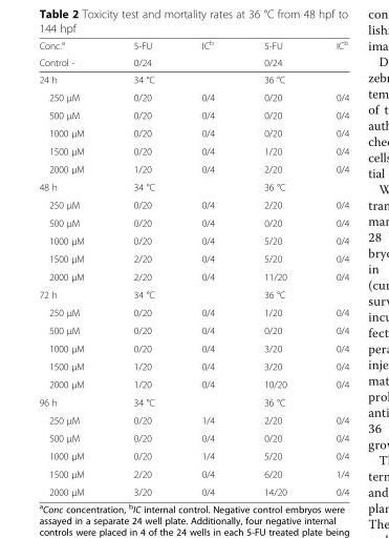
<table><thead><tr><td rowspan="2">Conc.<sup>a</sup> Control -</td><td>5-FU</td><td>IC<sup>b</sup></td><td>5-FU</td><td>IC<sup>b</sup></td></tr><tr><td colspan="2">0/24</td><td colspan="2">0/24</td></tr></thead><tbody><tr><td>24 h</td><td colspan="2">34 °C</td><td colspan="2">36 °C</td></tr><tr><td>250 μM</td><td>0/20</td><td>0/4</td><td>0/20</td><td>0/4</td></tr><tr><td>500 μM</td><td>0/20</td><td>0/4</td><td>0/20</td><td>0/4</td></tr><tr><td>1000 μM</td><td>0/20</td><td>0/4</td><td>0/20</td><td>0/4</td></tr><tr><td>1500 μM</td><td>0/20</td><td>0/4</td><td>1/20</td><td>0/4</td></tr><tr><td>2000 μM</td><td>1/20</td><td>0/4</td><td>2/20</td><td>0/4</td></tr><tr><td>48 h</td><td colspan="2">34 °C</td><td colspan="2">36 °C</td></tr><tr><td>250 μM</td><td>0/20</td><td>0/4</td><td>2/20</td><td>0/4</td></tr><tr><td>500 μM</td><td>0/20</td><td>0/4</td><td>0/20</td><td>0/4</td></tr><tr><td>1000 μM</td><td>0/20</td><td>0/4</td><td>5/20</td><td>0/4</td></tr><tr><td>1500 μM</td><td>2/20</td><td>0/4</td><td>5/20</td><td>0/4</td></tr><tr><td>2000 μM</td><td>2/20</td><td>0/4</td><td>11/20</td><td>0/4</td></tr><tr><td>72 h</td><td colspan="2">34 °C</td><td colspan="2">36 °C</td></tr><tr><td>250 μM</td><td>0/20</td><td>0/4</td><td>1/20</td><td>0/4</td></tr><tr><td>500 μM</td><td>0/20</td><td>0/4</td><td>0/20</td><td>0/4</td></tr><tr><td>1000 μM</td><td>0/20</td><td>0/4</td><td>3/20</td><td>0/4</td></tr><tr><td>1500 μM</td><td>1/20</td><td>0/4</td><td>3/20</td><td>0/4</td></tr><tr><td>2000 μM</td><td>1/20</td><td>0/4</td><td>10/20</td><td>0/4</td></tr><tr><td>96 h</td><td colspan="2">34 °C</td><td colspan="2">36 °C</td></tr><tr><td>250 μM</td><td>0/20</td><td>1/4</td><td>2/20</td><td>0/4</td></tr><tr><td>500 μM</td><td>0/20</td><td>0/4</td><td>0/20</td><td>0/4</td></tr><tr><td>1000 μM</td><td>0/20</td><td>1/4</td><td>5/20</td><td>0/4</td></tr><tr><td>1500 μM</td><td>2/20</td><td>0/4</td><td>6/20</td><td>1/4</td></tr><tr><td>2000 μM</td><td>3/20</td><td>0/4</td><td>14/20</td><td>0/4</td></tr></tbody></table>